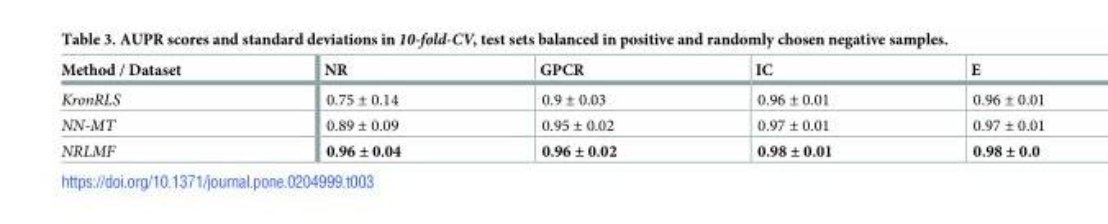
<table><thead><tr><td>Method / Dataset</td><td>NR</td><td>GPCR</td><td>IC</td><td>E</td></tr></thead><tbody><tr><td>KronRLS</td><td>0.75 ± 0.14</td><td>0.9 ± 0.03</td><td>0.96 ± 0.01</td><td>0.96 ± 0.01</td></tr><tr><td>NN-MT</td><td>0.89 ± 0.09</td><td>0.95 ± 0.02</td><td>0.97 ± 0.01</td><td>0.97 ± 0.01</td></tr><tr><td>NRLMF</td><td>0.96 ± 0.04</td><td>0.96 ± 0.02</td><td>0.98 ± 0.01</td><td>0.98 ± 0.0</td></tr></tbody></table>